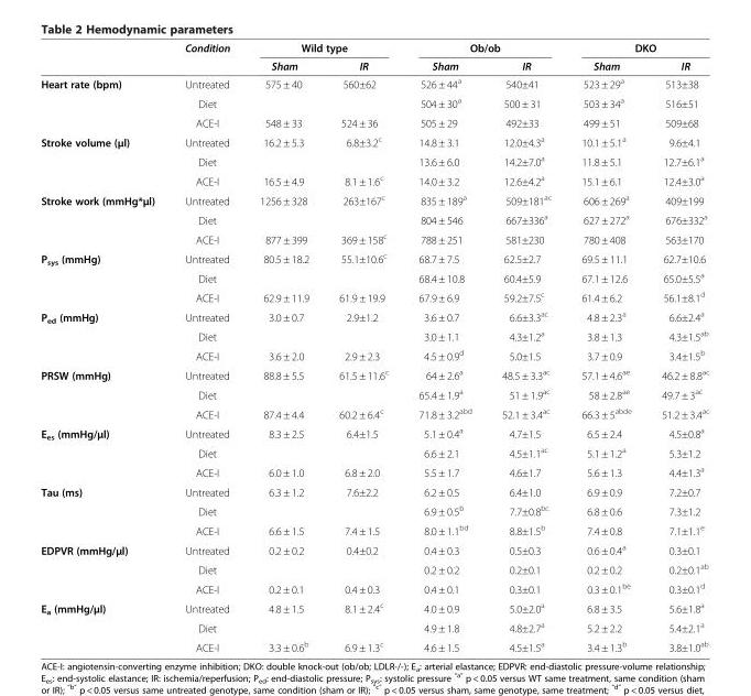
<table><thead><tr><td rowspan="2"></td><td rowspan="2">Condition</td><td colspan="2">Wild type</td><td colspan="2">Ob/ob</td><td colspan="2">DKO</td></tr><tr><td>Sham</td><td>IR</td><td>Sham</td><td>IR</td><td>Sham</td><td>IR</td></tr></thead><tbody><tr><td rowspan="3">Heart rate (bpm)</td><td>Untreated</td><td>575 ± 40</td><td>560±62</td><td>526 ± 44<sup>a</sup></td><td>540±41</td><td>523 ± 29<sup>a</sup></td><td>513±38</td></tr><tr><td>Diet</td><td></td><td></td><td>504 ± 30<sup>a</sup></td><td>500 ± 31</td><td>503 ± 34<sup>a</sup></td><td>516±51</td></tr><tr><td>ACE-I</td><td>548 ± 33</td><td>524 ± 36</td><td>505 ± 29</td><td>492±33</td><td>499 ± 51</td><td>509±68</td></tr><tr><td rowspan="3">Stroke volume (μl)</td><td>Untreated</td><td>16.2 ± 5.3</td><td>6.8±3.2<sup>c</sup></td><td>14.8 ± 3.1</td><td>12.0±4.3<sup>a</sup></td><td>10.1 ± 5.1<sup>a</sup></td><td>9.6±4.1</td></tr><tr><td>Diet</td><td></td><td></td><td>13.6 ± 6.0</td><td>14.2±7.0<sup>a</sup></td><td>11.8 ± 5.1</td><td>12.7±6.1<sup>a</sup></td></tr><tr><td>ACE-I</td><td>16.5 ± 4.9</td><td>8.1 ± 1.6<sup>c</sup></td><td>14.0 ± 3.2</td><td>12.6±4.2<sup>a</sup></td><td>15.1 ± 6.1</td><td>12.4±3.0<sup>a</sup></td></tr><tr><td rowspan="3">Stroke work (mmHg*μl)</td><td>Untreated</td><td>1256 ± 328</td><td>263±167<sup>c</sup></td><td>835 ± 189<sup>a</sup></td><td>509±181<sup>ac</sup></td><td>606 ± 269<sup>a</sup></td><td>409±199</td></tr><tr><td>Diet</td><td></td><td></td><td>804 ± 546</td><td>667±336<sup>a</sup></td><td>627 ± 272<sup>a</sup></td><td>676±332<sup>a</sup></td></tr><tr><td>ACE-I</td><td>877 ± 399</td><td>369 ± 158<sup>c</sup></td><td>788 ± 251</td><td>581±230</td><td>780 ± 408</td><td>563±170</td></tr><tr><td rowspan="3">P<sub>sys</sub> (mmHg)</td><td>Untreated</td><td>80.5 ± 18.2</td><td>55.1±10.6<sup>c</sup></td><td>68.7 ± 7.5</td><td>62.5±2.7</td><td>69.5 ± 11.1</td><td>62.7±10.6</td></tr><tr><td>Diet</td><td></td><td></td><td>68.4 ± 10.8</td><td>60.4±5.9</td><td>67.1 ± 12.6</td><td>65.0±5.5<sup>a</sup></td></tr><tr><td>ACE-I</td><td>62.9 ± 11.9</td><td>61.9 ± 19.9</td><td>67.9 ± 6.9</td><td>59.2±7.5<sup>c</sup></td><td>61.4 ± 6.2</td><td>56.1±8.1<sup>d</sup></td></tr><tr><td rowspan="3">P<sub>ed</sub> (mmHg)</td><td>Untreated</td><td>3.0 ± 0.7</td><td>2.9±1.2</td><td>3.6 ± 0.7</td><td>6.6±3.3<sup>ac</sup></td><td>4.8 ± 2.3<sup>a</sup></td><td>6.6±2.4<sup>a</sup></td></tr><tr><td>Diet</td><td></td><td></td><td>3.0 ± 1.1</td><td>4.3±1.2<sup>a</sup></td><td>3.8 ± 1.3</td><td>4.3±1.5<sup>ab</sup></td></tr><tr><td>ACE-I</td><td>3.6 ± 2.0</td><td>2.9 ± 2.3</td><td>4.5 ± 0.9<sup>d</sup></td><td>5.0±1.5</td><td>3.7 ± 0.9</td><td>3.4±1.5<sup>b</sup></td></tr><tr><td rowspan="3">PRSW (mmHg)</td><td>Untreated</td><td>88.8 ± 5.5</td><td>61.5 ± 11.6<sup>c</sup></td><td>64 ± 2.6<sup>a</sup></td><td>48.5 ± 3.3<sup>ac</sup></td><td>57.1 ± 4.6<sup>ae</sup></td><td>46.2 ± 8.8<sup>ac</sup></td></tr><tr><td>Diet</td><td></td><td></td><td>65.4 ± 1.9<sup>a</sup></td><td>51 ± 1.9<sup>ac</sup></td><td>58 ± 2.8<sup>ae</sup></td><td>49.7 ± 3<sup>ac</sup></td></tr><tr><td>ACE-I</td><td>87.4 ± 4.4</td><td>60.2 ± 6.4<sup>c</sup></td><td>71.8 ± 3.2<sup>abd</sup></td><td>52.1 ± 3.4<sup>ac</sup></td><td>66.3 ± 5<sup>abde</sup></td><td>51.2 ± 3.4<sup>ac</sup></td></tr><tr><td rowspan="3">E<sub>es</sub> (mmHg/μl)</td><td>Untreated</td><td>8.3 ± 2.5</td><td>6.4±1.5</td><td>5.1 ± 0.4<sup>a</sup></td><td>4.7±1.5</td><td>6.5 ± 2.4</td><td>4.5±0.8<sup>a</sup></td></tr><tr><td>Diet</td><td></td><td></td><td>6.6 ± 2.1</td><td>4.5±1.1<sup>ac</sup></td><td>5.1 ± 1.2<sup>a</sup></td><td>5.3±1.2</td></tr><tr><td>ACE-I</td><td>6.0 ± 1.0</td><td>6.8 ± 2.0</td><td>5.5 ± 1.7</td><td>4.6±1.7</td><td>5.6 ± 1.3</td><td>4.4±1.3<sup>a</sup></td></tr><tr><td rowspan="3">Tau (ms)</td><td>Untreated</td><td>6.3 ± 1.2</td><td>7.6±2.2</td><td>6.2 ± 0.5</td><td>6.4±1.0</td><td>6.9 ± 0.9</td><td>7.2±0.7</td></tr><tr><td>Diet</td><td></td><td></td><td>6.9 ± 0.5<sup>b</sup></td><td>7.7±0.8<sup>bc</sup></td><td>6.8 ± 0.6</td><td>7.3±1.2</td></tr><tr><td>ACE-I</td><td>6.6 ± 1.5</td><td>7.4 ± 1.5</td><td>8.0 ± 1.1<sup>bd</sup></td><td>8.8±1.5<sup>b</sup></td><td>7.4 ± 0.8</td><td>7.1±1.1<sup>e</sup></td></tr><tr><td rowspan="3">EDPVR (mmHg/μl)</td><td>Untreated</td><td>0.2 ± 0.2</td><td>0.4±0.2</td><td>0.4 ± 0.3</td><td>0.5±0.3</td><td>0.6 ± 0.4<sup>a</sup></td><td>0.3±0.1</td></tr><tr><td>Diet</td><td></td><td></td><td>0.2 ± 0.2</td><td>0.2±0.1</td><td>0.2 ± 0.2</td><td>0.2±0.1<sup>ab</sup></td></tr><tr><td>ACE-I</td><td>0.2 ± 0.1</td><td>0.4 ± 0.3</td><td>0.4 ± 0.1</td><td>0.3±0.1</td><td>0.3 ± 0.1<sup>be</sup></td><td>0.3±0.1<sup>d</sup></td></tr><tr><td rowspan="3">E<sub>a</sub> (mmHg/μl)</td><td>Untreated</td><td>4.8 ± 1.5</td><td>8.1 ± 2.4<sup>c</sup></td><td>4.0 ± 0.9</td><td>5.0±2.0<sup>a</sup></td><td>6.8 ± 3.5</td><td>5.6±1.8<sup>a</sup></td></tr><tr><td>Diet</td><td></td><td></td><td>4.9 ± 1.8</td><td>4.8±2.7<sup>a</sup></td><td>5.2 ± 2.2</td><td>5.4±2.1<sup>a</sup></td></tr><tr><td>ACE-I</td><td>3.3 ± 0.6<sup>b</sup></td><td>6.9 ± 1.3<sup>c</sup></td><td>4.6 ± 1.5</td><td>4.5±1.5<sup>a</sup></td><td>3.4 ± 1.3<sup>b</sup></td><td>3.8±1.0<sup>ab</sup></td></tr></tbody></table>